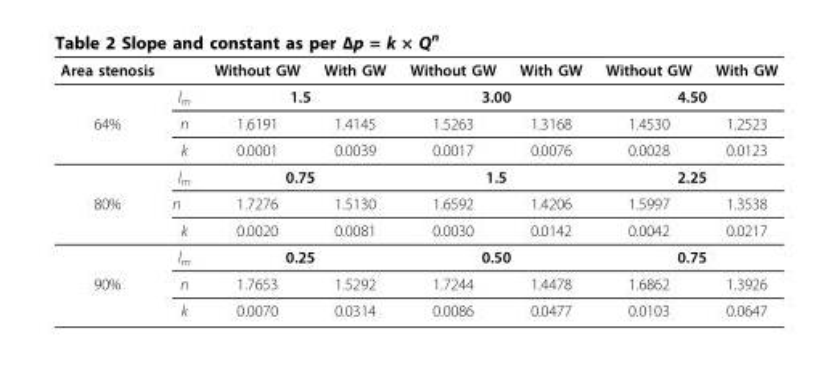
<table><thead><tr><td>Area stenosis</td><td></td><td>Without GW</td><td>With GW</td><td>Without GW</td><td>With GW</td><td>Without GW</td><td>With GW</td></tr></thead><tbody><tr><td></td><td>l<sub>m</sub></td><td colspan="2">1.5</td><td colspan="2">3.00</td><td colspan="2">4.50</td></tr><tr><td rowspan="3">64%</td><td>n</td><td>1.6191</td><td>1.4145</td><td>1.5263</td><td>1.3168</td><td>1.4530</td><td>1.2523</td></tr><tr><td>k</td><td>0.0001</td><td>0.0039</td><td>0.0017</td><td>0.0076</td><td>0.0028</td><td>0.0123</td></tr><tr><td>l<sub>m</sub></td><td colspan="2">0.75</td><td colspan="2">1.5</td><td colspan="2">2.25</td></tr><tr><td rowspan="3">80%</td><td>n</td><td>1.7276</td><td>1.5130</td><td>1.6592</td><td>1.4206</td><td>1.5997</td><td>1.3538</td></tr><tr><td>k</td><td>0.0020</td><td>0.0081</td><td>0.0030</td><td>0.0142</td><td>0.0042</td><td>0.0217</td></tr><tr><td>l<sub>m</sub></td><td colspan="2">0.25</td><td colspan="2">0.50</td><td colspan="2">0.75</td></tr><tr><td rowspan="2">90%</td><td>n</td><td>1.7653</td><td>1.5292</td><td>1.7244</td><td>1.4478</td><td>1.6862</td><td>1.3926</td></tr><tr><td>k</td><td>0.0070</td><td>0.0314</td><td>0.0086</td><td>0.0477</td><td>0.0103</td><td>0.0647</td></tr></tbody></table>